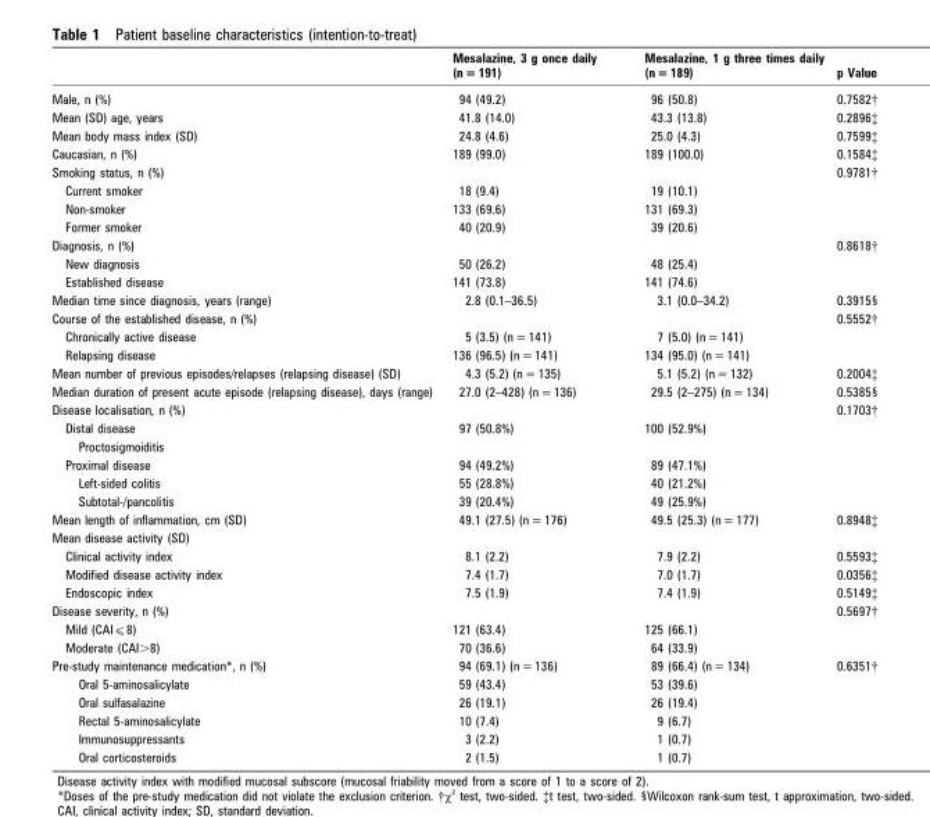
<table><thead><tr><td></td><td>Mesalazine, 3 g once daily (n = 191)</td><td>Mesalazine, 1 g three times daily (n = 189)</td><td>p Value</td></tr></thead><tbody><tr><td>Male, n (%)</td><td>94 (49.2)</td><td>96 (50.8)</td><td>0.7582†</td></tr><tr><td>Mean (SD) age, years</td><td>41.8 (14.0)</td><td>43.3 (13.8)</td><td>0.2896‡</td></tr><tr><td>Mean body mass index (SD)</td><td>24.8 (4.6)</td><td>25.0 (4.3)</td><td>0.7599‡</td></tr><tr><td>Caucasian, n (%)</td><td>189 (99.0)</td><td>189 (100.0)</td><td>0.1584‡</td></tr><tr><td>Smoking status, n (%)</td><td></td><td></td><td>0.9781†</td></tr><tr><td>Current smoker</td><td>18 (9.4)</td><td>19 (10.1)</td><td></td></tr><tr><td>Non-smoker</td><td>133 (69.6)</td><td>131 (69.3)</td><td></td></tr><tr><td>Former smoker</td><td>40 (20.9)</td><td>39 (20.6)</td><td></td></tr><tr><td>Diagnosis, n (%)</td><td></td><td></td><td>0.8618†</td></tr><tr><td>New diagnosis</td><td>50 (26.2)</td><td>48 (25.4)</td><td></td></tr><tr><td>Established disease</td><td>141 (73.8)</td><td>141 (74.6)</td><td></td></tr><tr><td>Median time since diagnosis, years (range)</td><td>2.8 (0.1–36.5)</td><td>3.1 (0.0–34.2)</td><td>0.3915§</td></tr><tr><td>Course of the established disease, n (%)</td><td></td><td></td><td>0.5552†</td></tr><tr><td>Chronically active disease</td><td>5 (3.5) (n = 141)</td><td>7 (5.0) (n = 141)</td><td></td></tr><tr><td>Relapsing disease</td><td>136 (96.5) (n = 141)</td><td>134 (95.0) (n = 141)</td><td></td></tr><tr><td>Mean number of previous episodes/relapses (relapsing disease) (SD)</td><td>4.3 (5.2) (n = 135)</td><td>5.1 (5.2) (n = 132)</td><td>0.2004‡</td></tr><tr><td>Median duration of present acute episode (relapsing disease), days (range)</td><td>27.0 (2–428) (n = 136)</td><td>29.5 (2–275) (n = 134)</td><td>0.5385§</td></tr><tr><td>Disease localisation, n (%)</td><td></td><td></td><td>0.1703†</td></tr><tr><td>Distal disease</td><td>97 (50.8%)</td><td>100 (52.9%)</td><td></td></tr><tr><td colspan="4">Proctosigmoiditis</td></tr><tr><td>Proximal disease</td><td>94 (49.2%)</td><td>89 (47.1%)</td><td></td></tr><tr><td>Left-sided colitis</td><td>55 (28.8%)</td><td>40 (21.2%)</td><td></td></tr><tr><td>Subtotal-/pancolitis</td><td>39 (20.4%)</td><td>49 (25.9%)</td><td></td></tr><tr><td>Mean length of inflammation, cm (SD)</td><td>49.1 (27.5) (n = 176)</td><td>49.5 (25.3) (n = 177)</td><td>0.8948‡</td></tr><tr><td colspan="4">Mean disease activity (SD)</td></tr><tr><td>Clinical activity index</td><td>8.1 (2.2)</td><td>7.9 (2.2)</td><td>0.5593‡</td></tr><tr><td>Modified disease activity index</td><td>7.4 (1.7)</td><td>7.0 (1.7)</td><td>0.0356‡</td></tr><tr><td>Endoscopic index</td><td>7.5 (1.9)</td><td>7.4 (1.9)</td><td>0.5149‡</td></tr><tr><td>Disease severity, n (%)</td><td></td><td></td><td>0.5697†</td></tr><tr><td>Mild (CAI⩽8)</td><td>121 (63.4)</td><td>125 (66.1)</td><td></td></tr><tr><td>Moderate (CAI&gt;8)</td><td>70 (36.6)</td><td>64 (33.9)</td><td></td></tr><tr><td>Pre-study maintenance medication*, n (%)</td><td>94 (69.1) (n = 136)</td><td>89 (66.4) (n = 134)</td><td>0.6351†</td></tr><tr><td>Oral 5-aminosalicylate</td><td>59 (43.4)</td><td>53 (39.6)</td><td></td></tr><tr><td>Oral sulfasalazine</td><td>26 (19.1)</td><td>26 (19.4)</td><td></td></tr><tr><td>Rectal 5-aminosalicylate</td><td>10 (7.4)</td><td>9 (6.7)</td><td></td></tr><tr><td>Immunosuppressants</td><td>3 (2.2)</td><td>1 (0.7)</td><td></td></tr><tr><td>Oral corticosteroids</td><td>2 (1.5)</td><td>1 (0.7)</td><td></td></tr></tbody></table>